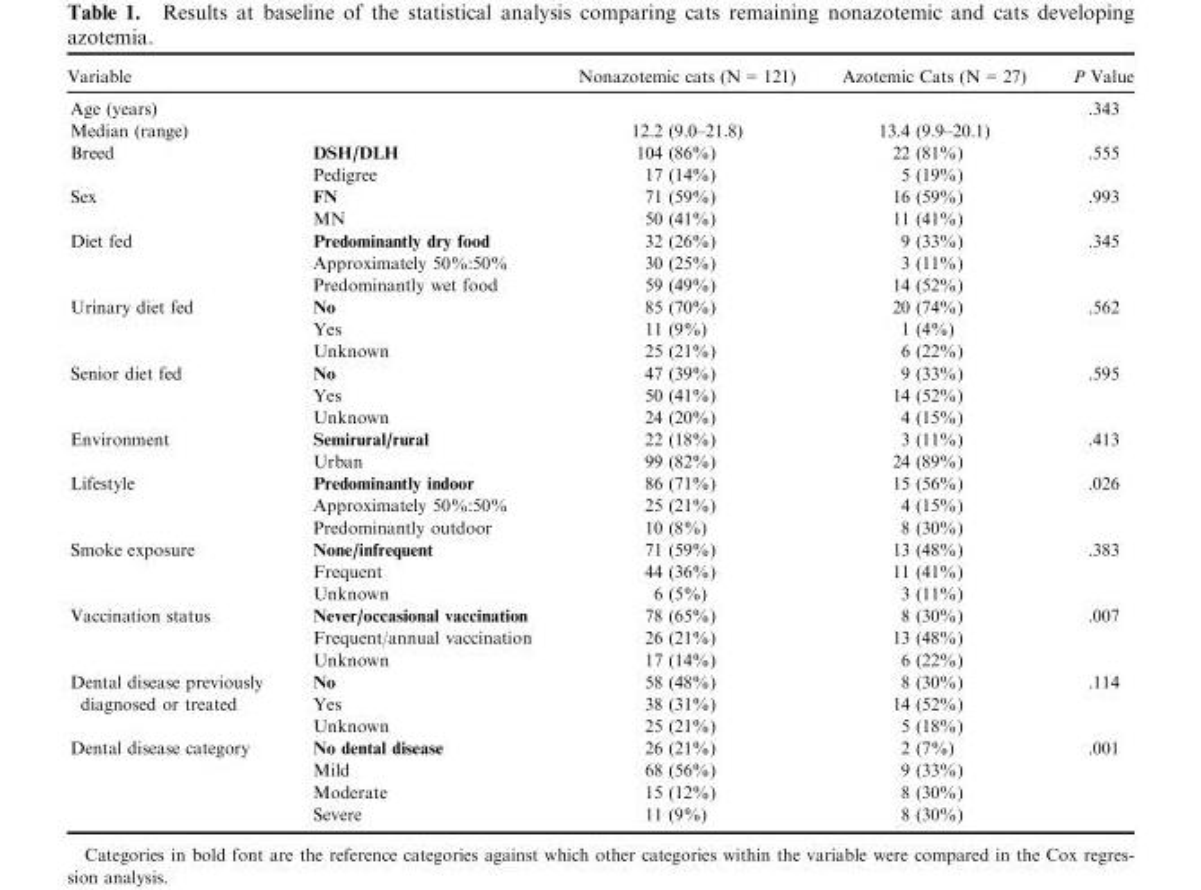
<table><thead><tr><td>Variable</td><td></td><td>Nonazotemic cats (N = 121)</td><td>Azotemic Cats (N = 27)</td><td>P Value</td></tr></thead><tbody><tr><td colspan="4">Age (years)</td><td rowspan="2">.343</td></tr><tr><td>Median (range)</td><td></td><td>12.2 (9.0–21.8)</td><td>13.4 (9.9–20.1)</td></tr><tr><td rowspan="2">Breed</td><td>DSH/DLH</td><td>104 (86%)</td><td>22 (81%)</td><td rowspan="2">.555</td></tr><tr><td>Pedigree</td><td>17 (14%)</td><td>5 (19%)</td></tr><tr><td rowspan="2">Sex</td><td>FN</td><td>71 (59%)</td><td>16 (59%)</td><td rowspan="2">.993</td></tr><tr><td>MN</td><td>50 (41%)</td><td>11 (41%)</td></tr><tr><td rowspan="3">Diet fed</td><td>Predominantly dry food</td><td>32 (26%)</td><td>9 (33%)</td><td rowspan="3">.345</td></tr><tr><td>Approximately 50%:50%</td><td>30 (25%)</td><td>3 (11%)</td></tr><tr><td>Predominantly wet food</td><td>59 (49%)</td><td>14 (52%)</td></tr><tr><td rowspan="3">Urinary diet fed</td><td>No</td><td>85 (70%)</td><td>20 (74%)</td><td rowspan="3">.562</td></tr><tr><td>Yes</td><td>11 (9%)</td><td>1 (4%)</td></tr><tr><td>Unknown</td><td>25 (21%)</td><td>6 (22%)</td></tr><tr><td rowspan="3">Senior diet fed</td><td>No</td><td>47 (39%)</td><td>9 (33%)</td><td rowspan="3">.595</td></tr><tr><td>Yes</td><td>50 (41%)</td><td>14 (52%)</td></tr><tr><td>Unknown</td><td>24 (20%)</td><td>4 (15%)</td></tr><tr><td rowspan="2">Environment</td><td>Semirural/rural</td><td>22 (18%)</td><td>3 (11%)</td><td rowspan="2">.413</td></tr><tr><td>Urban</td><td>99 (82%)</td><td>24 (89%)</td></tr><tr><td rowspan="3">Lifestyle</td><td>Predominantly indoor</td><td>86 (71%)</td><td>15 (56%)</td><td rowspan="3">.026</td></tr><tr><td>Approximately 50%:50%</td><td>25 (21%)</td><td>4 (15%)</td></tr><tr><td>Predominantly outdoor</td><td>10 (8%)</td><td>8 (30%)</td></tr><tr><td rowspan="3">Smoke exposure</td><td>None/infrequent</td><td>71 (59%)</td><td>13 (48%)</td><td rowspan="3">.383</td></tr><tr><td>Frequent</td><td>44 (36%)</td><td>11 (41%)</td></tr><tr><td>Unknown</td><td>6 (5%)</td><td>3 (11%)</td></tr><tr><td rowspan="3">Vaccination status</td><td>Never/occasional vaccination</td><td>78 (65%)</td><td>8 (30%)</td><td rowspan="3">.007</td></tr><tr><td>Frequent/annual vaccination</td><td>26 (21%)</td><td>13 (48%)</td></tr><tr><td>Unknown</td><td>17 (14%)</td><td>6 (22%)</td></tr><tr><td rowspan="3">Dental disease previously diagnosed or treated</td><td>No</td><td>58 (48%)</td><td>8 (30%)</td><td rowspan="3">.114</td></tr><tr><td>Yes</td><td>38 (31%)</td><td>14 (52%)</td></tr><tr><td>Unknown</td><td>25 (21%)</td><td>5 (18%)</td></tr><tr><td rowspan="4">Dental disease category</td><td>No dental disease</td><td>26 (21%)</td><td>2 (7%)</td><td rowspan="4">.001</td></tr><tr><td>Mild</td><td>68 (56%)</td><td>9 (33%)</td></tr><tr><td>Moderate</td><td>15 (12%)</td><td>8 (30%)</td></tr><tr><td>Severe</td><td>11 (9%)</td><td>8 (30%)</td></tr></tbody></table>